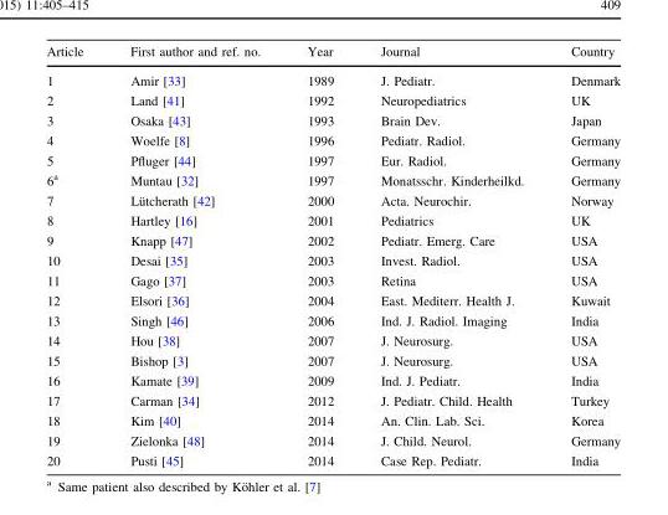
<table><thead><tr><td>Article</td><td>First author and ref. no.</td><td>Year</td><td>Journal</td><td>Country</td></tr></thead><tbody><tr><td>1</td><td>Amir [33]</td><td>1989</td><td>J. Pediatr.</td><td>Denmark</td></tr><tr><td>2</td><td>Land [41]</td><td>1992</td><td>Neuropediatrics</td><td>UK</td></tr><tr><td>3</td><td>Osaka [43]</td><td>1993</td><td>Brain Dev.</td><td>Japan</td></tr><tr><td>4</td><td>Woelfe [8]</td><td>1996</td><td>Pediatr. Radiol.</td><td>Germany</td></tr><tr><td>5</td><td>Pfluger [44]</td><td>1997</td><td>Eur. Radiol.</td><td>Germany</td></tr><tr><td>6<sup>a</sup></td><td>Muntau [32]</td><td>1997</td><td>Monatsschr. Kinderheilkd.</td><td>Germany</td></tr><tr><td>7</td><td>Lu¨tcherath [42]</td><td>2000</td><td>Acta. Neurochir.</td><td>Norway</td></tr><tr><td>8</td><td>Hartley [16]</td><td>2001</td><td>Pediatrics</td><td>UK</td></tr><tr><td>9</td><td>Knapp [47]</td><td>2002</td><td>Pediatr. Emerg. Care</td><td>USA</td></tr><tr><td>10</td><td>Desai [35]</td><td>2003</td><td>Invest. Radiol.</td><td>USA</td></tr><tr><td>11</td><td>Gago [37]</td><td>2003</td><td>Retina</td><td>USA</td></tr><tr><td>12</td><td>Elsori [36]</td><td>2004</td><td>East. Mediterr. Health J.</td><td>Kuwait</td></tr><tr><td>13</td><td>Singh [46]</td><td>2006</td><td>Ind. J. Radiol. Imaging</td><td>India</td></tr><tr><td>14</td><td>Hou [38]</td><td>2007</td><td>J. Neurosurg.</td><td>USA</td></tr><tr><td>15</td><td>Bishop [3]</td><td>2007</td><td>J. Neurosurg.</td><td>USA</td></tr><tr><td>16</td><td>Kamate [39]</td><td>2009</td><td>Ind. J. Pediatr.</td><td>India</td></tr><tr><td>17</td><td>Carman [34]</td><td>2012</td><td>J. Pediatr. Child. Health</td><td>Turkey</td></tr><tr><td>18</td><td>Kim [40]</td><td>2014</td><td>An. Clin. Lab. Sci.</td><td>Korea</td></tr><tr><td>19</td><td>Zielonka [48]</td><td>2014</td><td>J. Child. Neurol.</td><td>Germany</td></tr><tr><td>20</td><td>Pusti [45]</td><td>2014</td><td>Case Rep. Pediatr.</td><td>India</td></tr></tbody></table>